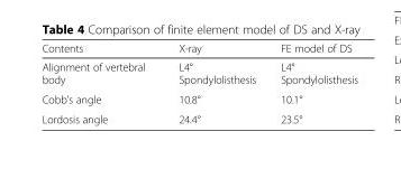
<table><thead><tr><td>Contents</td><td>X-ray</td><td>FE model of DS</td></tr></thead><tbody><tr><td>Alignment of vertebral body</td><td>L4° Spondylolisthesis</td><td>L4° Spondylolisthesis</td></tr><tr><td>Cobb’s angle</td><td>10.8°</td><td>10.1°</td></tr><tr><td>Lordosis angle</td><td>24.4°</td><td>23.5°</td></tr></tbody></table>